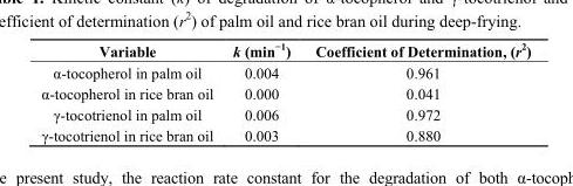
<table><thead><tr><td>Variable</td><td>k (min<sup>−1</sup>)</td><td>Coefficient of Determination, (r<sup>2</sup>)</td></tr></thead><tbody><tr><td>α-tocopherol in palm oil</td><td>0.004</td><td>0.961</td></tr><tr><td>α-tocopherol in rice bran oil</td><td>0.000</td><td>0.041</td></tr><tr><td>γ-tocotrienol in palm oil</td><td>0.006</td><td>0.972</td></tr><tr><td>γ-tocotrienol in rice bran oil</td><td>0.003</td><td>0.880</td></tr></tbody></table>